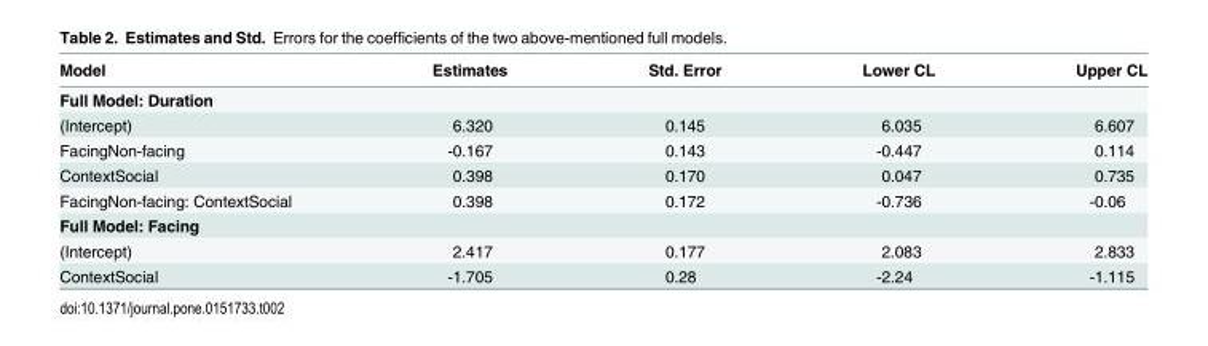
<table><thead><tr><td>Model</td><td>Estimates</td><td>Std. Error</td><td>Lower CL</td><td>Upper CL</td></tr></thead><tbody><tr><td colspan="5">Full Model: Duration</td></tr><tr><td>(Intercept)</td><td>6.320</td><td>0.145</td><td>6.035</td><td>6.607</td></tr><tr><td>FacingNon-facing</td><td>-0.167</td><td>0.143</td><td>-0.447</td><td>0.114</td></tr><tr><td>ContextSocial</td><td>0.398</td><td>0.170</td><td>0.047</td><td>0.735</td></tr><tr><td>FacingNon-facing: ContextSocial</td><td>0.398</td><td>0.172</td><td>-0.736</td><td>-0.06</td></tr><tr><td colspan="5">Full Model: Facing</td></tr><tr><td>(Intercept)</td><td>2.417</td><td>0.177</td><td>2.083</td><td>2.833</td></tr><tr><td>ContextSocial</td><td>-1.705</td><td>0.28</td><td>-2.24</td><td>-1.115</td></tr></tbody></table>